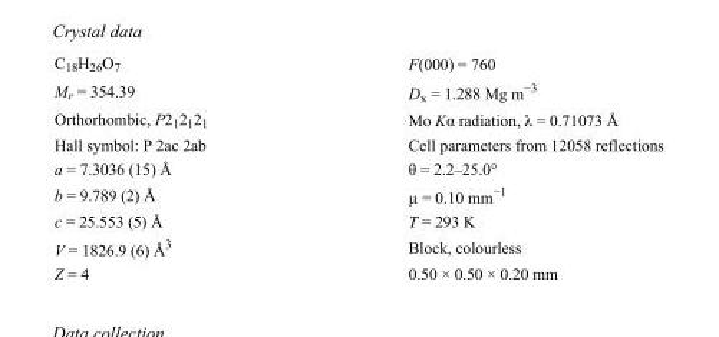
<table><tbody><tr><td>C<sub>18</sub>H<sub>26</sub>O<sub>7</sub></td><td>F(000) = 760</td></tr><tr><td>M<sub>r</sub> = 354.39</td><td>D<sub>x</sub> = 1.288 Mg m<sup>−3</sup></td></tr><tr><td>Orthorhombic, P2<sub>1</sub>2<sub>1</sub>2<sub>1</sub></td><td>Mo Kα radiation, λ = 0.71073 Å</td></tr><tr><td>Hall symbol: P 2ac 2ab</td><td>Cell parameters from 12058 reflections</td></tr><tr><td>a = 7.3036 (15) Å</td><td>θ = 2.2–25.0°</td></tr><tr><td>b = 9.789 (2) Å</td><td>µ = 0.10 mm<sup>−1</sup></td></tr><tr><td>c = 25.553 (5) Å</td><td>T = 293 K</td></tr><tr><td>V = 1826.9 (6) Å<sup>3</sup></td><td>Block, colourless</td></tr><tr><td>Z = 4</td><td>0.50 × 0.50 × 0.20 mm</td></tr></tbody></table>